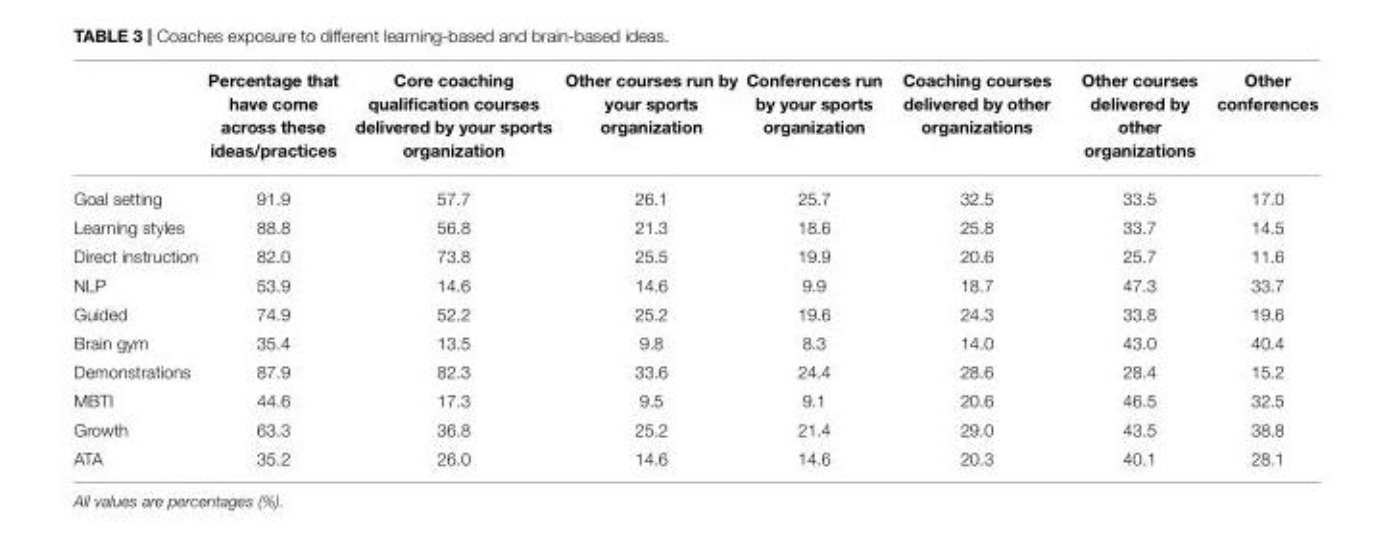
<table><thead><tr><td></td><td>Percentage that have come across these ideas/practices</td><td>Core coaching qualification courses delivered by your sports organization</td><td>Other courses run by your sports organization</td><td>Conferences run by your sports organization</td><td>Coaching courses delivered by other organizations</td><td>Other courses delivered by other organizations</td><td>Other conferences</td></tr></thead><tbody><tr><td>Goal setting</td><td>91.9</td><td>57.7</td><td>26.1</td><td>25.7</td><td>32.5</td><td>33.5</td><td>17.0</td></tr><tr><td>Learning styles</td><td>88.8</td><td>56.8</td><td>21.3</td><td>18.6</td><td>25.8</td><td>33.7</td><td>14.5</td></tr><tr><td>Direct instruction</td><td>82.0</td><td>73.8</td><td>25.5</td><td>19.9</td><td>20.6</td><td>25.7</td><td>11.6</td></tr><tr><td>NLP</td><td>53.9</td><td>14.6</td><td>14.6</td><td>9.9</td><td>18.7</td><td>47.3</td><td>33.7</td></tr><tr><td>Guided</td><td>74.9</td><td>52.2</td><td>25.2</td><td>19.6</td><td>24.3</td><td>33.8</td><td>19.6</td></tr><tr><td>Brain gym</td><td>35.4</td><td>13.5</td><td>9.8</td><td>8.3</td><td>14.0</td><td>43.0</td><td>40.4</td></tr><tr><td>Demonstrations</td><td>87.9</td><td>82.3</td><td>33.6</td><td>24.4</td><td>28.6</td><td>28.4</td><td>15.2</td></tr><tr><td>MBTI</td><td>44.6</td><td>17.3</td><td>9.5</td><td>9.1</td><td>20.6</td><td>46.5</td><td>32.5</td></tr><tr><td>Growth</td><td>63.3</td><td>36.8</td><td>25.2</td><td>21.4</td><td>29.0</td><td>43.5</td><td>38.8</td></tr><tr><td>ATA</td><td>35.2</td><td>26.0</td><td>14.6</td><td>14.6</td><td>20.3</td><td>40.1</td><td>28.1</td></tr></tbody></table>